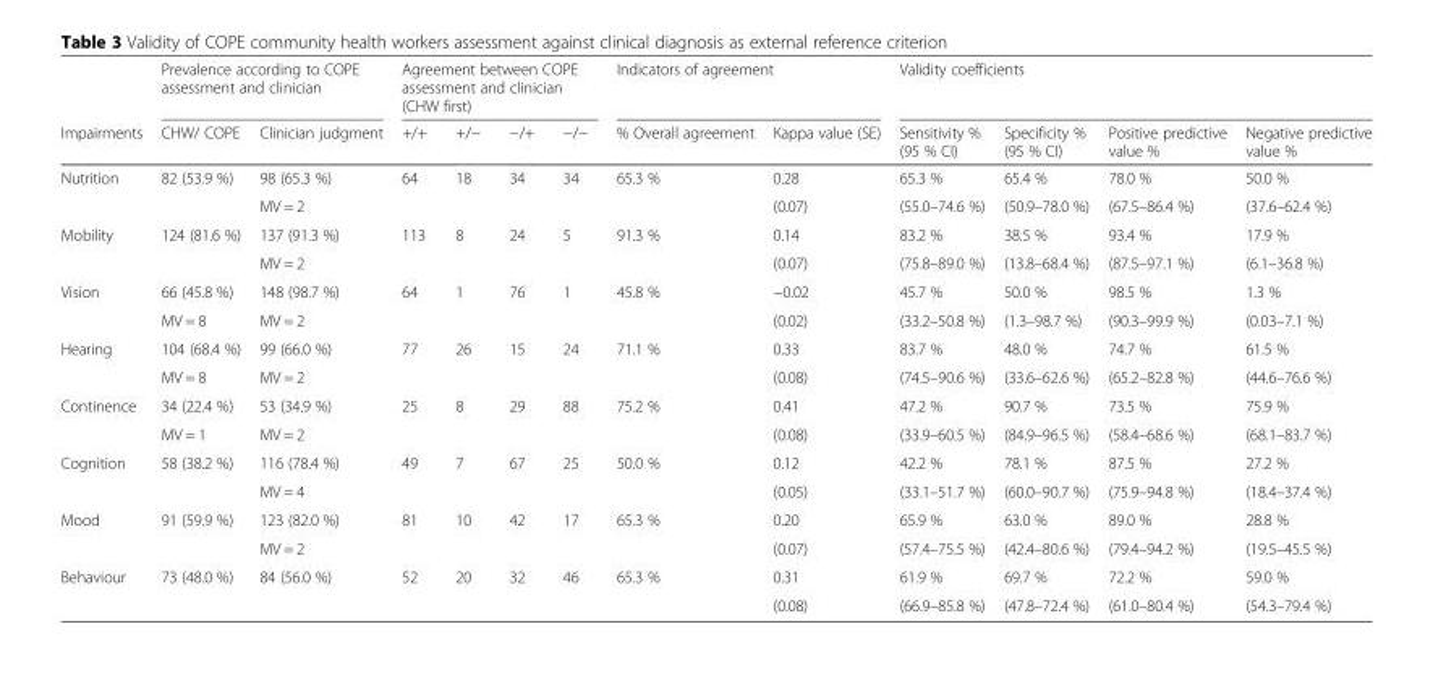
<table><thead><tr><td rowspan="2">Impairments</td><td colspan="2">Prevalence according to COPE assessment and clinician</td><td colspan="4">Agreement between COPE assessment and clinician (CHW first)</td><td colspan="2">Indicators of agreement</td><td colspan="4">Validity coefficients</td></tr><tr><td>CHW/ COPE</td><td>Clinician judgment</td><td>+/+</td><td>+/−</td><td>−/+</td><td>−/−</td><td>% Overall agreement</td><td>Kappa value (SE)</td><td>Sensitivity % (95 % CI)</td><td>Specificity % (95 % CI)</td><td>Positive predictive value %</td><td>Negative predictive value %</td></tr></thead><tbody><tr><td rowspan="2">Nutrition</td><td rowspan="2">82 (53.9 %)</td><td>98 (65.3 %)</td><td rowspan="2">64</td><td rowspan="2">18</td><td rowspan="2">34</td><td rowspan="2">34</td><td rowspan="2">65.3 %</td><td>0.28</td><td>65.3 %</td><td>65.4 %</td><td>78.0 %</td><td>50.0 %</td></tr><tr><td>MV = 2</td><td>(0.07)</td><td>(55.0–74.6 %)</td><td>(50.9–78.0 %)</td><td>(67.5–86.4 %)</td><td>(37.6–62.4 %)</td></tr><tr><td rowspan="2">Mobility</td><td rowspan="2">124 (81.6 %)</td><td>137 (91.3 %)</td><td rowspan="2">113</td><td rowspan="2">8</td><td rowspan="2">24</td><td rowspan="2">5</td><td rowspan="2">91.3 %</td><td>0.14</td><td>83.2 %</td><td>38.5 %</td><td>93.4 %</td><td>17.9 %</td></tr><tr><td>MV = 2</td><td>(0.07)</td><td>(75.8–89.0 %)</td><td>(13.8–68.4 %)</td><td>(87.5–97.1 %)</td><td>(6.1–36.8 %)</td></tr><tr><td rowspan="2">Vision</td><td>66 (45.8 %)</td><td>148 (98.7 %)</td><td rowspan="2">64</td><td rowspan="2">1</td><td rowspan="2">76</td><td rowspan="2">1</td><td rowspan="2">45.8 %</td><td>−0.02</td><td>45.7 %</td><td>50.0 %</td><td>98.5 %</td><td>1.3 %</td></tr><tr><td>MV = 8</td><td>MV = 2</td><td>(0.02)</td><td>(33.2–50.8 %)</td><td>(1.3–98.7 %)</td><td>(90.3–99.9 %)</td><td>(0.03–7.1 %)</td></tr><tr><td rowspan="2">Hearing</td><td>104 (68.4 %)</td><td>99 (66.0 %)</td><td rowspan="2">77</td><td rowspan="2">26</td><td rowspan="2">15</td><td rowspan="2">24</td><td rowspan="2">71.1 %</td><td>0.33</td><td>83.7 %</td><td>48.0 %</td><td>74.7 %</td><td>61.5 %</td></tr><tr><td>MV = 8</td><td>MV = 2</td><td>(0.08)</td><td>(74.5–90.6 %)</td><td>(33.6–62.6 %)</td><td>(65.2–82.8 %)</td><td>(44.6–76.6 %)</td></tr><tr><td rowspan="2">Continence</td><td>34 (22.4 %)</td><td>53 (34.9 %)</td><td rowspan="2">25</td><td rowspan="2">8</td><td rowspan="2">29</td><td rowspan="2">88</td><td rowspan="2">75.2 %</td><td>0.41</td><td>47.2 %</td><td>90.7 %</td><td>73.5 %</td><td>75.9 %</td></tr><tr><td>MV = 1</td><td>MV = 2</td><td>(0.08)</td><td>(33.9–60.5 %)</td><td>(84.9–96.5 %)</td><td>(58.4–68.6 %)</td><td>(68.1–83.7 %)</td></tr><tr><td rowspan="2">Cognition</td><td rowspan="2">58 (38.2 %)</td><td>116 (78.4 %)</td><td rowspan="2">49</td><td rowspan="2">7</td><td rowspan="2">67</td><td rowspan="2">25</td><td rowspan="2">50.0 %</td><td>0.12</td><td>42.2 %</td><td>78.1 %</td><td>87.5 %</td><td>27.2 %</td></tr><tr><td>MV = 4</td><td>(0.05)</td><td>(33.1–51.7 %)</td><td>(60.0–90.7 %)</td><td>(75.9–94.8 %)</td><td>(18.4–37.4 %)</td></tr><tr><td rowspan="2">Mood</td><td rowspan="2">91 (59.9 %)</td><td>123 (82.0 %)</td><td rowspan="2">81</td><td rowspan="2">10</td><td rowspan="2">42</td><td rowspan="2">17</td><td rowspan="2">65.3 %</td><td>0.20</td><td>65.9 %</td><td>63.0 %</td><td>89.0 %</td><td>28.8 %</td></tr><tr><td>MV = 2</td><td>(0.07)</td><td>(57.4–75.5 %)</td><td>(42.4–80.6 %)</td><td>(79.4–94.2 %)</td><td>(19.5–45.5 %)</td></tr><tr><td rowspan="2">Behaviour</td><td rowspan="2">73 (48.0 %)</td><td rowspan="2">84 (56.0 %)</td><td rowspan="2">52</td><td rowspan="2">20</td><td rowspan="2">32</td><td rowspan="2">46</td><td rowspan="2">65.3 %</td><td>0.31</td><td>61.9 %</td><td>69.7 %</td><td>72.2 %</td><td>59.0 %</td></tr><tr><td>(0.08)</td><td>(66.9–85.8 %)</td><td>(47.8–72.4 %)</td><td>(61.0–80.4 %)</td><td>(54.3–79.4 %)</td></tr></tbody></table>